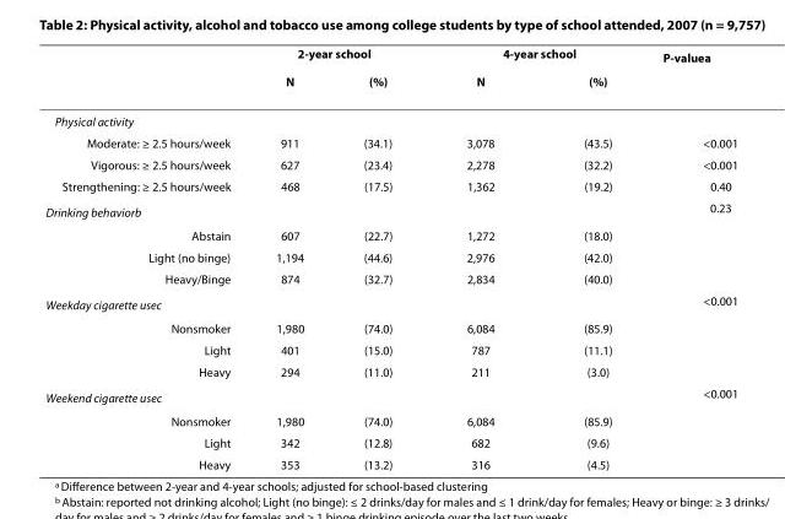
<table><thead><tr><td rowspan="2"></td><td colspan="2">2-year school</td><td colspan="2">4-year school</td><td rowspan="2">P-value<sup>a</sup></td></tr><tr><td>N</td><td>(%)</td><td>N</td><td>(%)</td></tr></thead><tbody><tr><td colspan="6">Physical activity</td></tr><tr><td>Moderate: ≥ 2.5 hours/week</td><td>911</td><td>(34.1)</td><td>3,078</td><td>(43.5)</td><td>&lt;0.001</td></tr><tr><td>Vigorous: ≥ 2.5 hours/week</td><td>627</td><td>(23.4)</td><td>2,278</td><td>(32.2)</td><td>&lt;0.001</td></tr><tr><td>Strengthening: ≥ 2.5 hours/week</td><td>468</td><td>(17.5)</td><td>1,362</td><td>(19.2)</td><td>0.40</td></tr><tr><td>Drinking behavior<sup>b</sup></td><td></td><td></td><td></td><td></td><td>0.23</td></tr><tr><td>Abstain</td><td>607</td><td>(22.7)</td><td>1,272</td><td>(18.0)</td><td></td></tr><tr><td>Light (no binge)</td><td>1,194</td><td>(44.6)</td><td>2,976</td><td>(42.0)</td><td></td></tr><tr><td>Heavy/Binge</td><td>874</td><td>(32.7)</td><td>2,834</td><td>(40.0)</td><td></td></tr><tr><td>Weekday cigarette use<sup>c</sup></td><td></td><td></td><td></td><td></td><td>&lt;0.001</td></tr><tr><td>Nonsmoker</td><td>1,980</td><td>(74.0)</td><td>6,084</td><td>(85.9)</td><td></td></tr><tr><td>Light</td><td>401</td><td>(15.0)</td><td>787</td><td>(11.1)</td><td></td></tr><tr><td>Heavy</td><td>294</td><td>(11.0)</td><td>211</td><td>(3.0)</td><td></td></tr><tr><td>Weekend cigarette use<sup>c</sup></td><td></td><td></td><td></td><td></td><td>&lt;0.001</td></tr><tr><td>Nonsmoker</td><td>1,980</td><td>(74.0)</td><td>6,084</td><td>(85.9)</td><td></td></tr><tr><td>Light</td><td>342</td><td>(12.8)</td><td>682</td><td>(9.6)</td><td></td></tr><tr><td>Heavy</td><td>353</td><td>(13.2)</td><td>316</td><td>(4.5)</td><td></td></tr></tbody></table>